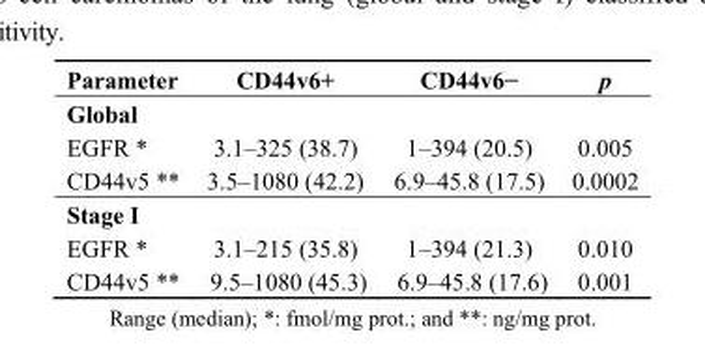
<table><thead><tr><td>Parameter</td><td>CD44v6+</td><td>CD44v6−</td><td>p</td></tr></thead><tbody><tr><td colspan="4">Global</td></tr><tr><td>EGFR *</td><td>3.1–325 (38.7)</td><td>1–394 (20.5)</td><td>0.005</td></tr><tr><td>CD44v5 **</td><td>3.5–1080 (42.2)</td><td>6.9–45.8 (17.5)</td><td>0.0002</td></tr><tr><td colspan="4">Stage I</td></tr><tr><td>EGFR *</td><td>3.1–215 (35.8)</td><td>1–394 (21.3)</td><td>0.010</td></tr><tr><td>CD44v5 **</td><td>9.5–1080 (45.3)</td><td>6.9–45.8 (17.6)</td><td>0.001</td></tr></tbody></table>